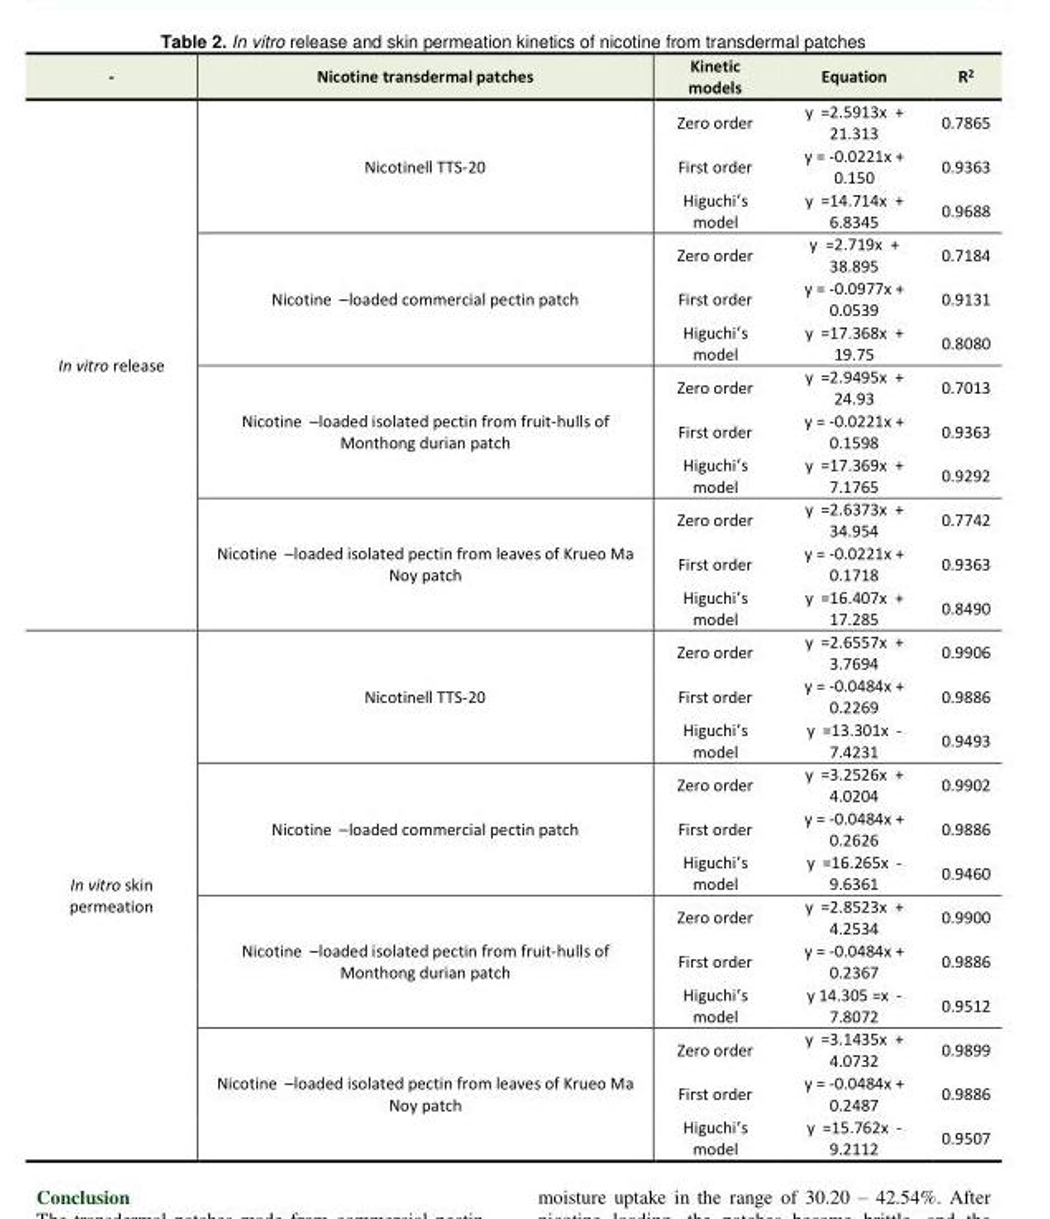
<table><tbody><tr><td>-</td><td>Nicotine transdermal patches</td><td>Kinetic models</td><td>Equation</td><td>R<sup>2</sup></td></tr><tr><td rowspan="12">In vitro release</td><td rowspan="3">Nicotinell TTS-20</td><td>Zero order</td><td>y =2.5913x + 21.313</td><td>0.7865</td></tr><tr><td>First order</td><td>y = -0.0221x + 0.150</td><td>0.9363</td></tr><tr><td>Higuchi’s model</td><td>y =14.714x + 6.8345</td><td>0.9688</td></tr><tr><td rowspan="3">Nicotine – loaded commercial pectin patch</td><td>Zero order</td><td>y =2.719x + 38.895</td><td>0.7184</td></tr><tr><td>First order</td><td>y = -0.0977x + 0.0539</td><td>0.9131</td></tr><tr><td>Higuchi’s model</td><td>y =17.368x + 19.75</td><td>0.8080</td></tr><tr><td rowspan="3">Nicotine – loaded isolated pectin from fruit-hulls of Monthong durian patch</td><td>Zero order</td><td>y =2.9495x + 24.93</td><td>0.7013</td></tr><tr><td>First order</td><td>y = -0.0221x + 0.1598</td><td>0.9363</td></tr><tr><td>Higuchi’s model</td><td>y =17.369x + 7.1765</td><td>0.9292</td></tr><tr><td rowspan="3">Nicotine – loaded isolated pectin from leaves of Krueo Ma Noy patch</td><td>Zero order</td><td>y =2.6373x + 34.954</td><td>0.7742</td></tr><tr><td>First order</td><td>y = -0.0221x + 0.1718</td><td>0.9363</td></tr><tr><td>Higuchi’s model</td><td>y =16.407x + 17.285</td><td>0.8490</td></tr><tr><td rowspan="12">In vitro skin permeation</td><td rowspan="3">Nicotinell TTS-20</td><td>Zero order</td><td>y =2.6557x + 3.7694</td><td>0.9906</td></tr><tr><td>First order</td><td>y = -0.0484x + 0.2269</td><td>0.9886</td></tr><tr><td>Higuchi’s model</td><td>y =13.301x - 7.4231</td><td>0.9493</td></tr><tr><td rowspan="3">Nicotine – loaded commercial pectin patch</td><td>Zero order</td><td>y =3.2526x + 4.0204</td><td>0.9902</td></tr><tr><td>First order</td><td>y = -0.0484x + 0.2626</td><td>0.9886</td></tr><tr><td>Higuchi’s model</td><td>y =16.265x - 9.6361</td><td>0.9460</td></tr><tr><td rowspan="3">Nicotine – loaded isolated pectin from fruit-hulls of Monthong durian patch</td><td>Zero order</td><td>y =2.8523x + 4.2534</td><td>0.9900</td></tr><tr><td>First order</td><td>y = -0.0484x + 0.2367</td><td>0.9886</td></tr><tr><td>Higuchi’s model</td><td>y = 50.941 x - 2.0427</td><td>4.3157</td></tr><tr><td rowspan="3">Nicotine – loaded isolated pectin from leaves of Krueo Ma Noy patch</td><td>Zero order</td><td>y =3.1435x + 4.0732</td><td>0.9899</td></tr><tr><td>First order</td><td>y = -0.0484x + 0.2487</td><td>0.9886</td></tr><tr><td>Higuchi’s model</td><td>y =15.762x - 9.2112</td><td>0.9507</td></tr></tbody></table>